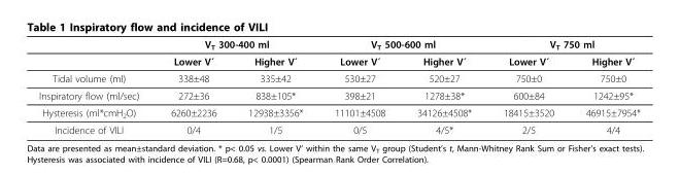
<table><thead><tr><td rowspan="2"></td><td colspan="2">V<sub>T</sub> 300-400 ml</td><td colspan="2">V<sub>T</sub> 500-600 ml</td><td colspan="2">V<sub>T</sub> 750 ml</td></tr><tr><td>Lower V´</td><td>Higher V´</td><td>Lower V´</td><td>Higher V´</td><td>Lower V´</td><td>Higher V´</td></tr></thead><tbody><tr><td>Tidal volume (ml)</td><td>338±48</td><td>335±42</td><td>530±27</td><td>520±27</td><td>750±0</td><td>750±0</td></tr><tr><td>Inspiratory flow (ml/sec)</td><td>272±36</td><td>838±105*</td><td>398±21</td><td>1278±38*</td><td>600±84</td><td>1242±95*</td></tr><tr><td>Hysteresis (ml*cmH<sub>2</sub>O)</td><td>6260±2236</td><td>12938±3356*</td><td>11101±4508</td><td>34126±4508*</td><td>18415±3520</td><td>46915±7954*</td></tr><tr><td>Incidence of VILI</td><td>0/4</td><td>1/5</td><td>0/5</td><td>4/5*</td><td>2/5</td><td>4/4</td></tr></tbody></table>